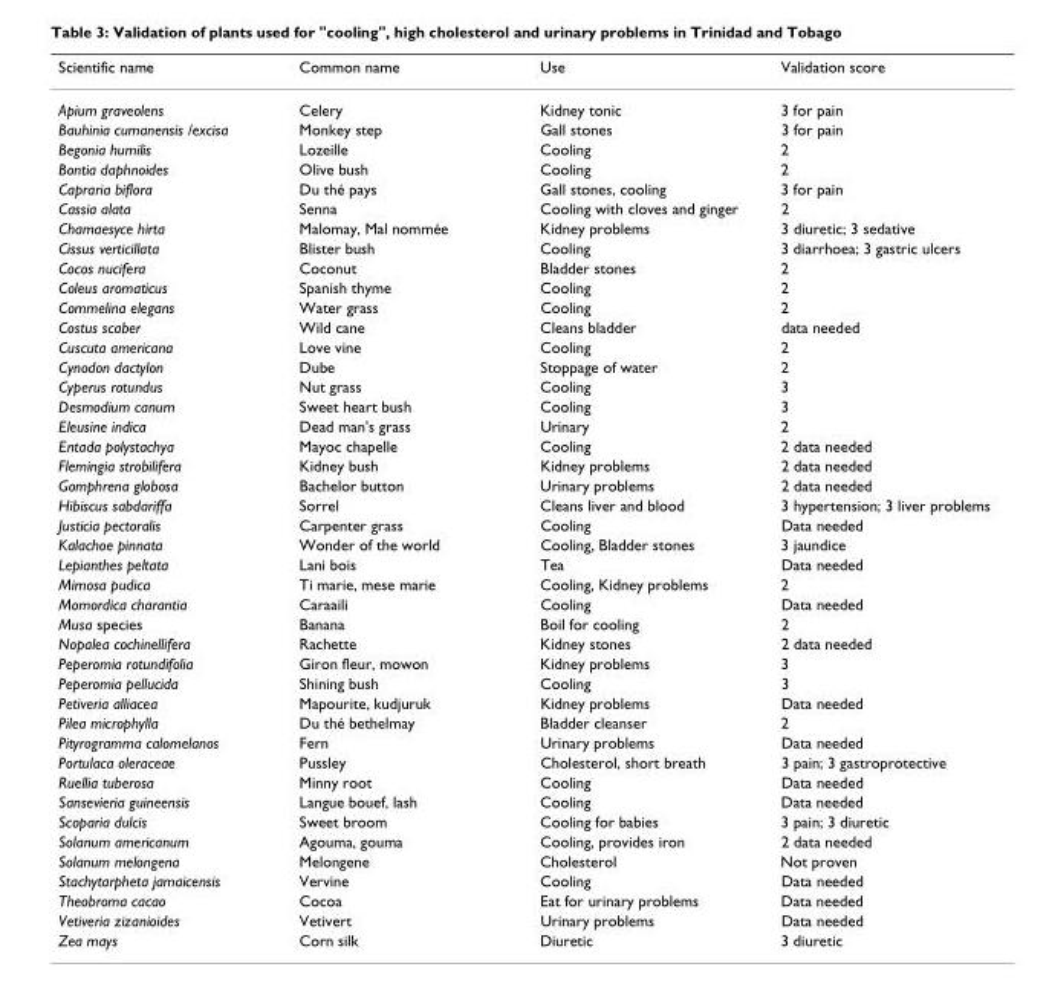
<table><thead><tr><td>Scientific name</td><td>Common name</td><td>Use</td><td>Validation score</td></tr></thead><tbody><tr><td>Apium graveolens</td><td>Celery</td><td>Kidney tonic</td><td>3 for pain</td></tr><tr><td>Bauhinia cumanensis /excisa</td><td>Monkey step</td><td>Gall stones</td><td>3 for pain</td></tr><tr><td>Begonia humilis</td><td>Lozeille</td><td>Cooling</td><td>2</td></tr><tr><td>Bontia daphnoides</td><td>Olive bush</td><td>Cooling</td><td>2</td></tr><tr><td>Capraria biflora</td><td>Du thé pays</td><td>Gall stones, cooling</td><td>3 for pain</td></tr><tr><td>Cassia alata</td><td>Senna</td><td>Cooling with cloves and ginger</td><td>2</td></tr><tr><td>Chamaesyce hirta</td><td>Malomay, Mal nommée</td><td>Kidney problems</td><td>3 diuretic; 3 sedative</td></tr><tr><td>Cissus verticillata</td><td>Blister bush</td><td>Cooling</td><td>3 diarrhoea; 3 gastric ulcers</td></tr><tr><td>Cocos nucifera</td><td>Coconut</td><td>Bladder stones</td><td>2</td></tr><tr><td>Coleus aromaticus</td><td>Spanish thyme</td><td>Cooling</td><td>2</td></tr><tr><td>Commelina elegans</td><td>Water grass</td><td>Cooling</td><td>2</td></tr><tr><td>Costus scaber</td><td>Wild cane</td><td>Cleans bladder</td><td>data needed</td></tr><tr><td>Cuscuta americana</td><td>Love vine</td><td>Cooling</td><td>2</td></tr><tr><td>Cynodon dactylon</td><td>Dube</td><td>Stoppage of water</td><td>2</td></tr><tr><td>Cyperus rotundus</td><td>Nut grass</td><td>Cooling</td><td>3</td></tr><tr><td>Desmodium canum</td><td>Sweet heart bush</td><td>Cooling</td><td>3</td></tr><tr><td>Eleusine indica</td><td>Dead man&#x27;s grass</td><td>Urinary</td><td>2</td></tr><tr><td>Entada polystachya</td><td>Mayoc chapelle</td><td>Cooling</td><td>2 data needed</td></tr><tr><td>Flemingia strobilifera</td><td>Kidney bush</td><td>Kidney problems</td><td>2 data needed</td></tr><tr><td>Gomphrena globosa</td><td>Bachelor button</td><td>Urinary problems</td><td>2 data needed</td></tr><tr><td>Hibiscus sabdariffa</td><td>Sorrel</td><td>Cleans liver and blood</td><td>3 hypertension; 3 liver problems</td></tr><tr><td>Justicia pectoralis</td><td>Carpenter grass</td><td>Cooling</td><td>Data needed</td></tr><tr><td>Kalachoe pinnata</td><td>Wonder of the world</td><td>Cooling, Bladder stones</td><td>3 jaundice</td></tr><tr><td>Lepianthes peltata</td><td>Lani bois</td><td>Tea</td><td>Data needed</td></tr><tr><td>Mimosa pudica</td><td>Ti marie, mese marie</td><td>Cooling, Kidney problems</td><td>2</td></tr><tr><td>Momordica charantia</td><td>Caraaili</td><td>Cooling</td><td>Data needed</td></tr><tr><td>Musa species</td><td>Banana</td><td>Boil for cooling</td><td>2</td></tr><tr><td>Nopalea cochinellifera</td><td>Rachette</td><td>Kidney stones</td><td>2 data needed</td></tr><tr><td>Peperomia rotundifolia</td><td>Giron fleur, mowon</td><td>Kidney problems</td><td>3</td></tr><tr><td>Peperomia pellucida</td><td>Shining bush</td><td>Cooling</td><td>3</td></tr><tr><td>Petiveria alliacea</td><td>Mapourite, kudjuruk</td><td>Kidney problems</td><td>Data needed</td></tr><tr><td>Pilea microphylla</td><td>Du thé bethelmay</td><td>Bladder cleanser</td><td>2</td></tr><tr><td>Pityrogramma calomelanos</td><td>Fern</td><td>Urinary problems</td><td>Data needed</td></tr><tr><td>Portulaca oleraceae</td><td>Pussley</td><td>Cholesterol, short breath</td><td>3 pain; 3 gastroprotective</td></tr><tr><td>Ruellia tuberosa</td><td>Minny root</td><td>Cooling</td><td>Data needed</td></tr><tr><td>Sansevieria guineensis</td><td>Langue bouef, lash</td><td>Cooling</td><td>Data needed</td></tr><tr><td>Scoparia dulcis</td><td>Sweet broom</td><td>Cooling for babies</td><td>3 pain; 3 diuretic</td></tr><tr><td>Solanum americanum</td><td>Agouma, gouma</td><td>Cooling, provides iron</td><td>2 data needed</td></tr><tr><td>Solanum melongena</td><td>Melongene</td><td>Cholesterol</td><td>Not proven</td></tr><tr><td>Stachytarpheta jamaicensis</td><td>Vervine</td><td>Cooling</td><td>Data needed</td></tr><tr><td>Theobroma cacao</td><td>Cocoa</td><td>Eat for urinary problems</td><td>Data needed</td></tr><tr><td>Vetiveria zizanioides</td><td>Vetivert</td><td>Urinary problems</td><td>Data needed</td></tr><tr><td>Zea mays</td><td>Corn silk</td><td>Diuretic</td><td>3 diuretic</td></tr></tbody></table>